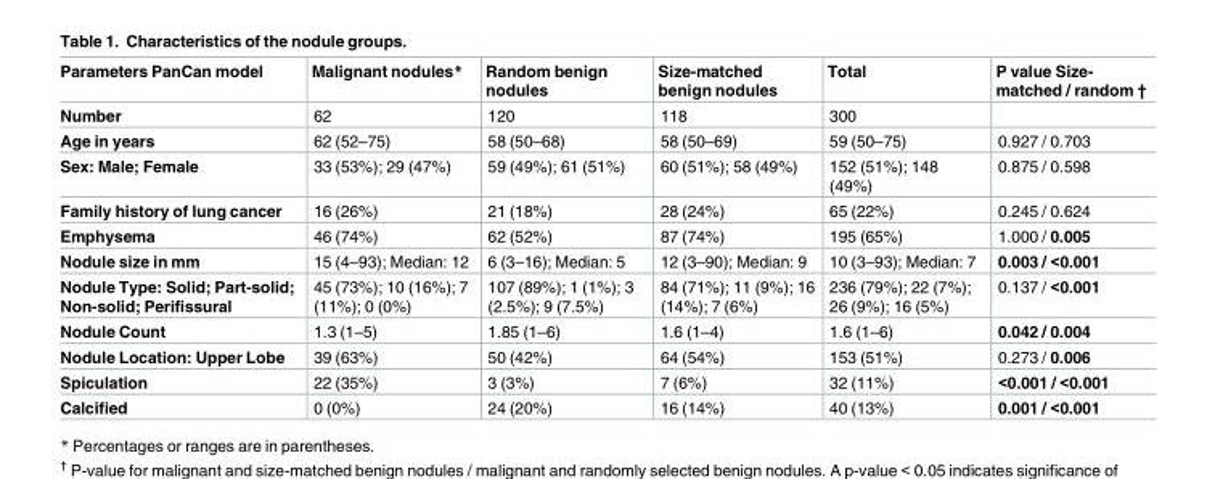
<table><thead><tr><td>Parameters PanCan model</td><td>Malignant nodules*</td><td>Random benign nodules</td><td>Size-matched benign nodules</td><td>Total</td><td>P value Size- matched / random †</td></tr></thead><tbody><tr><td>Number</td><td>62</td><td>120</td><td>118</td><td>300</td><td></td></tr><tr><td>Age in years</td><td>62 (52–75)</td><td>58 (50–68)</td><td>58 (50–69)</td><td>59 (50–75)</td><td>0.927 / 0.703</td></tr><tr><td>Sex: Male; Female</td><td>33 (53%); 29 (47%)</td><td>59 (49%); 61 (51%)</td><td>60 (51%); 58 (49%)</td><td>152 (51%); 148 (49%)</td><td>0.875 / 0.598</td></tr><tr><td>Family history of lung cancer</td><td>16 (26%)</td><td>21 (18%)</td><td>28 (24%)</td><td>65 (22%)</td><td>0.245 / 0.624</td></tr><tr><td>Emphysema</td><td>46 (74%)</td><td>62 (52%)</td><td>87 (74%)</td><td>195 (65%)</td><td>1.000 / 0.005</td></tr><tr><td>Nodule size in mm</td><td>15 (4–93); Median: 12</td><td>6 (3–16); Median: 5</td><td>12 (3–90); Median: 9</td><td>10 (3–93); Median: 7</td><td>0.003 / &lt;0.001</td></tr><tr><td>Nodule Type: Solid; Part-solid; Non-solid; Perifissural</td><td>45 (73%); 10 (16%); 7 (11%); 0 (0%)</td><td>107 (89%); 1 (1%); 3 (2.5%); 9 (7.5%)</td><td>84 (71%); 11 (9%); 16 (14%); 7 (6%)</td><td>236 (79%); 22 (7%); 26 (9%); 16 (5%)</td><td>0.137 / &lt;0.001</td></tr><tr><td>Nodule Count</td><td>1.3 (1–5)</td><td>1.85 (1–6)</td><td>1.6 (1–4)</td><td>1.6 (1–6)</td><td>0.042 / 0.004</td></tr><tr><td>Nodule Location: Upper Lobe</td><td>39 (63%)</td><td>50 (42%)</td><td>64 (54%)</td><td>153 (51%)</td><td>0.273 / 0.006</td></tr><tr><td>Spiculation</td><td>22 (35%)</td><td>3 (3%)</td><td>7 (6%)</td><td>32 (11%)</td><td>&lt;0.001 / &lt;0.001</td></tr><tr><td>Calcified</td><td>0 (0%)</td><td>24 (20%)</td><td>16 (14%)</td><td>40 (13%)</td><td>0.001 / &lt;0.001</td></tr></tbody></table>